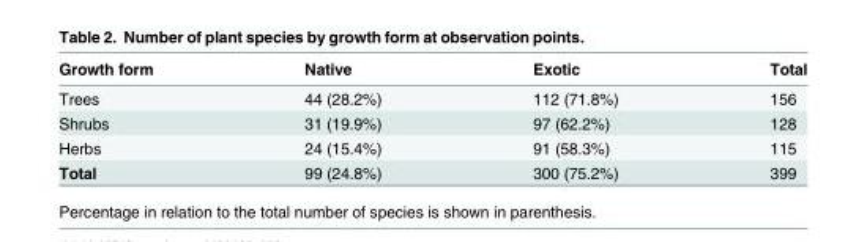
<table><thead><tr><td>Growth form</td><td>Native</td><td>Exotic</td><td>Total</td></tr></thead><tbody><tr><td>Trees</td><td>44 (28.2%)</td><td>112 (71.8%)</td><td>156</td></tr><tr><td>Shrubs</td><td>31 (19.9%)</td><td>97 (62.2%)</td><td>128</td></tr><tr><td>Herbs</td><td>24 (15.4%)</td><td>91 (58.3%)</td><td>115</td></tr><tr><td>Total</td><td>99 (24.8%)</td><td>300 (75.2%)</td><td>399</td></tr></tbody></table>